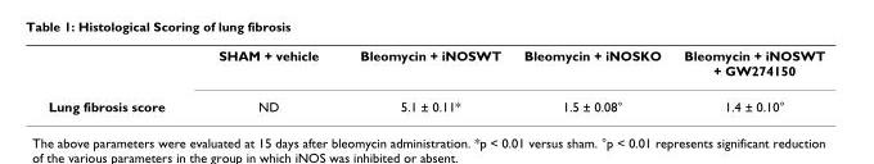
<table><thead><tr><td></td><td>SHAM + vehicle</td><td>Bleomycin + iNOSWT</td><td>Bleomycin + iNOSKO</td><td>Bleomycin + iNOSWT + GW274150</td></tr></thead><tbody><tr><td>Lung fibrosis score</td><td>ND</td><td>5.1 ± 0.11*</td><td>1.5 ± 0.08°</td><td>1.4 ± 0.10°</td></tr></tbody></table>